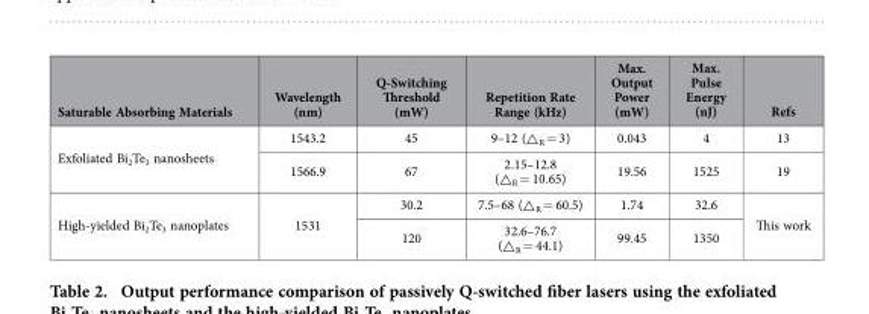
<table><thead><tr><td>Saturable Absorbing Materials</td><td>Wavelength (nm)</td><td>Q-Switching Threshold (mW)</td><td>Repetition Rate Range (kHz)</td><td>Max. Output Power (mW)</td><td>Max. Pulse Energy (nJ)</td><td>Refs</td></tr></thead><tbody><tr><td rowspan="2">Exfoliated Bi<sub>2</sub>Te<sub>3</sub> nanosheets</td><td>1543.2</td><td>45</td><td>9–12 (△ <sub>R</sub> = 3)</td><td>0.043</td><td>4</td><td>13</td></tr><tr><td>1566.9</td><td>67</td><td>2.15–12.8 (△ <sub>R</sub> = 10.65)</td><td>19.56</td><td>1525</td><td>19</td></tr><tr><td rowspan="2">High-yielded Bi<sub>2</sub>Te<sub>3</sub> nanoplates</td><td rowspan="2">1531</td><td>30.2</td><td>7.5–68 (△ <sub>R</sub> = 60.5)</td><td>1.74</td><td>32.6</td><td rowspan="2">This work</td></tr><tr><td>120</td><td>32.6–76.7 (△ <sub>R</sub> = 44.1)</td><td>99.45</td><td>1350</td></tr></tbody></table>